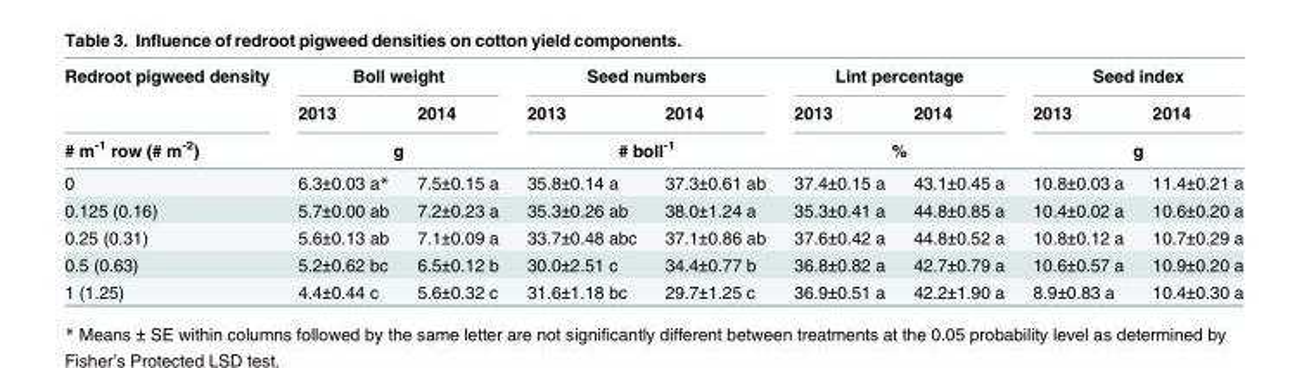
<table><thead><tr><td rowspan="3">Redroot pigweed density # m<sup>-1</sup> row (# m<sup>-2</sup>)</td><td colspan="2">Boll weight</td><td colspan="2">Seed numbers</td><td colspan="2">Lint percentage</td><td colspan="2">Seed index</td></tr><tr><td>2013</td><td>2014</td><td>2013</td><td>2014</td><td>2013</td><td>2014</td><td>2013</td><td>2014</td></tr><tr><td colspan="2">g</td><td colspan="2"># boll<sup>-1</sup></td><td colspan="2">%</td><td colspan="2">g</td></tr></thead><tbody><tr><td>0</td><td>6.3±0.03 a*</td><td>7.5±0.15 a</td><td>35.8±0.14 a</td><td>37.3±0.61 ab</td><td>37.4±0.15 a</td><td>43.1±0.45 a</td><td>10.8±0.03 a</td><td>11.4±0.21 a</td></tr><tr><td>0.125 (0.16)</td><td>5.7±0.00 ab</td><td>7.2±0.23 a</td><td>35.3±0.26 ab</td><td>38.0±1.24 a</td><td>35.3±0.41 a</td><td>44.8±0.85 a</td><td>10.4±0.02 a</td><td>10.6±0.20 a</td></tr><tr><td>0.25 (0.31)</td><td>5.6±0.13 ab</td><td>7.1±0.09 a</td><td>33.7±0.48 abc</td><td>37.1±0.86 ab</td><td>37.6±0.42 a</td><td>44.8±0.52 a</td><td>10.8±0.12 a</td><td>10.7±0.29 a</td></tr><tr><td>0.5 (0.63)</td><td>5.2±0.62 bc</td><td>6.5±0.12 b</td><td>30.0±2.51 c</td><td>34.4±0.77 b</td><td>36.8±0.82 a</td><td>42.7±0.79 a</td><td>10.6±0.57 a</td><td>10.9±0.20 a</td></tr><tr><td>1 (1.25)</td><td>4.4±0.44 c</td><td>5.6±0.32 c</td><td>31.6±1.18 bc</td><td>29.7±1.25 c</td><td>36.9±0.51 a</td><td>42.2±1.90 a</td><td>8.9±0.83 a</td><td>10.4±0.30 a</td></tr></tbody></table>